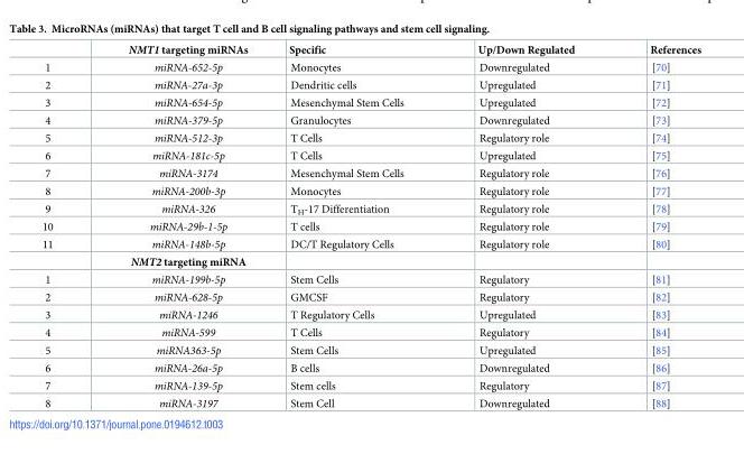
<table><thead><tr><td></td><td>NMT1 targeting miRNAs</td><td>Specific</td><td>Up/Down Regulated</td><td>References</td></tr></thead><tbody><tr><td>1</td><td>miRNA-652-5p</td><td>Monocytes</td><td>Downregulated</td><td>[70]</td></tr><tr><td>2</td><td>miRNA-27a-3p</td><td>Dendritic cells</td><td>Upregulated</td><td>[71]</td></tr><tr><td>3</td><td>miRNA-654-5p</td><td>Mesenchymal Stem Cells</td><td>Upregulated</td><td>[72]</td></tr><tr><td>4</td><td>miRNA-379-5p</td><td>Granulocytes</td><td>Downregulated</td><td>[73]</td></tr><tr><td>5</td><td>miRNA-512-3p</td><td>T Cells</td><td>Regulatory role</td><td>[74]</td></tr><tr><td>6</td><td>miRNA-181c-5p</td><td>T Cells</td><td>Upregulated</td><td>[75]</td></tr><tr><td>7</td><td>miRNA-3174</td><td>Mesenchymal Stem Cells</td><td>Regulatory role</td><td>[76]</td></tr><tr><td>8</td><td>miRNA-200b-3p</td><td>Monocytes</td><td>Regulatory role</td><td>[77]</td></tr><tr><td>9</td><td>miRNA-326</td><td>T<sub>H</sub>-17 Differentiation</td><td>Regulatory role</td><td>[78]</td></tr><tr><td>10</td><td>miRNA-29b-1-5p</td><td>T cells</td><td>Regulatory role</td><td>[79]</td></tr><tr><td rowspan="2">11</td><td>miRNA-148b-5p</td><td>DC/T Regulatory Cells</td><td>Regulatory role</td><td>[80]</td></tr><tr><td>NMT2 targeting miRNA</td><td></td><td></td><td></td></tr><tr><td>1</td><td>miRNA-199b-5p</td><td>Stem Cells</td><td>Regulatory</td><td>[81]</td></tr><tr><td>2</td><td>miRNA-628-5p</td><td>GMCSF</td><td>Regulatory</td><td>[82]</td></tr><tr><td>3</td><td>miRNA-1246</td><td>T Regulatory Cells</td><td>Upregulated</td><td>[83]</td></tr><tr><td>4</td><td>miRNA-599</td><td>T Cells</td><td>Regulatory</td><td>[84]</td></tr><tr><td>5</td><td>miRNA363-5p</td><td>Stem Cells</td><td>Upregulated</td><td>[85]</td></tr><tr><td>6</td><td>miRNA-26a-5p</td><td>B cells</td><td>Downregulated</td><td>[86]</td></tr><tr><td>7</td><td>miRNA-139-5p</td><td>Stem cells</td><td>Regulatory</td><td>[87]</td></tr><tr><td>8</td><td>miRNA-3197</td><td>Stem Cell</td><td>Downregulated</td><td>[88]</td></tr></tbody></table>